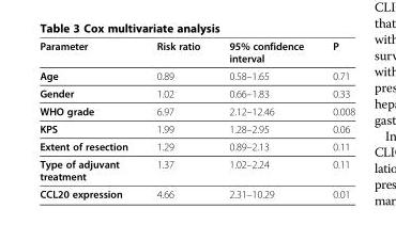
<table><thead><tr><td>Parameter</td><td>Risk ratio</td><td>95% confidence interval</td><td>P</td></tr></thead><tbody><tr><td>Age</td><td>0.89</td><td>0.58–1.65</td><td>0.71</td></tr><tr><td>Gender</td><td>1.02</td><td>0.66–1.83</td><td>0.33</td></tr><tr><td>WHO grade</td><td>6.97</td><td>2.12–12.46</td><td>0.008</td></tr><tr><td>KPS</td><td>1.99</td><td>1.28–2.95</td><td>0.06</td></tr><tr><td>Extent of resection</td><td>1.29</td><td>0.89–2.13</td><td>0.11</td></tr><tr><td>Type of adjuvant treatment</td><td>1.37</td><td>1.02–2.24</td><td>0.11</td></tr><tr><td>CCL20 expression</td><td>4.66</td><td>2.31–10.29</td><td>0.01</td></tr></tbody></table>